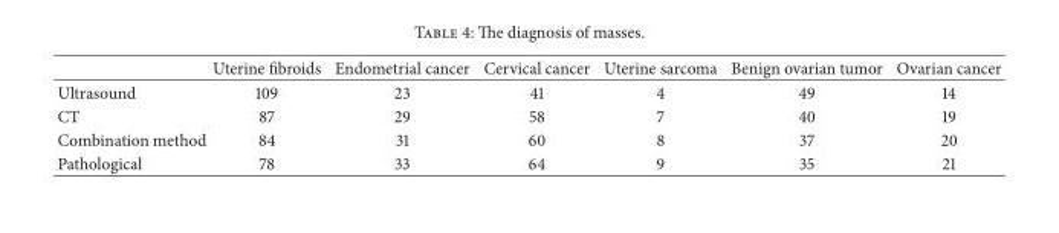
<table><thead><tr><td></td><td>Uterine fibroids</td><td>Endometrial cancer</td><td>Cervical cancer</td><td>Uterine sarcoma</td><td>Benign ovarian tumor</td><td>Ovarian cancer</td></tr></thead><tbody><tr><td>Ultrasound</td><td>109</td><td>23</td><td>41</td><td>4</td><td>49</td><td>14</td></tr><tr><td>CT</td><td>87</td><td>29</td><td>58</td><td>7</td><td>40</td><td>19</td></tr><tr><td>Combination method</td><td>84</td><td>31</td><td>60</td><td>8</td><td>37</td><td>20</td></tr><tr><td>Pathological</td><td>78</td><td>33</td><td>64</td><td>9</td><td>35</td><td>21</td></tr></tbody></table>